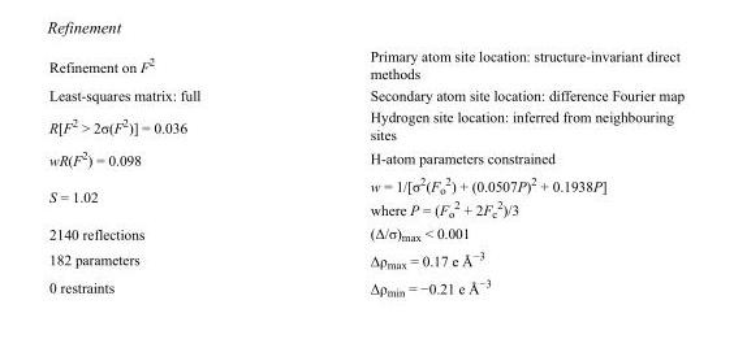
<table><tbody><tr><td>Refinement on F<sup>2</sup></td><td>Primary atom site location: structure-invariant direct methods</td></tr><tr><td>Least-squares matrix: full</td><td>Secondary atom site location: difference Fourier map</td></tr><tr><td>R[F<sup>2</sup> &gt; 2σ(F<sup>2</sup>)] = 0.036</td><td>Hydrogen site location: inferred from neighbouring sites</td></tr><tr><td>wR(F<sup>2</sup>) = 0.098</td><td>H-atom parameters constrained</td></tr><tr><td>S = 1.02</td><td>w = 1/[σ<sup>2</sup>(F<sub>o</sub> <sup>2</sup>) + (0.0507P)<sup>2</sup> + 0.1938P] where P = (F<sub>o</sub> <sup>2</sup> + 2F<sub>c</sub> <sup>2</sup>)/3</td></tr><tr><td>2140 reflections</td><td>(Δ/σ)<sub>max</sub> &lt; 0.001</td></tr><tr><td>182 parameters</td><td>Δρ<sub>max</sub> = 0.17 e Å<sup>−3</sup></td></tr><tr><td>0 restraints</td><td>Δρ<sub>min</sub> = −0.21 e Å<sup>−3</sup></td></tr></tbody></table>